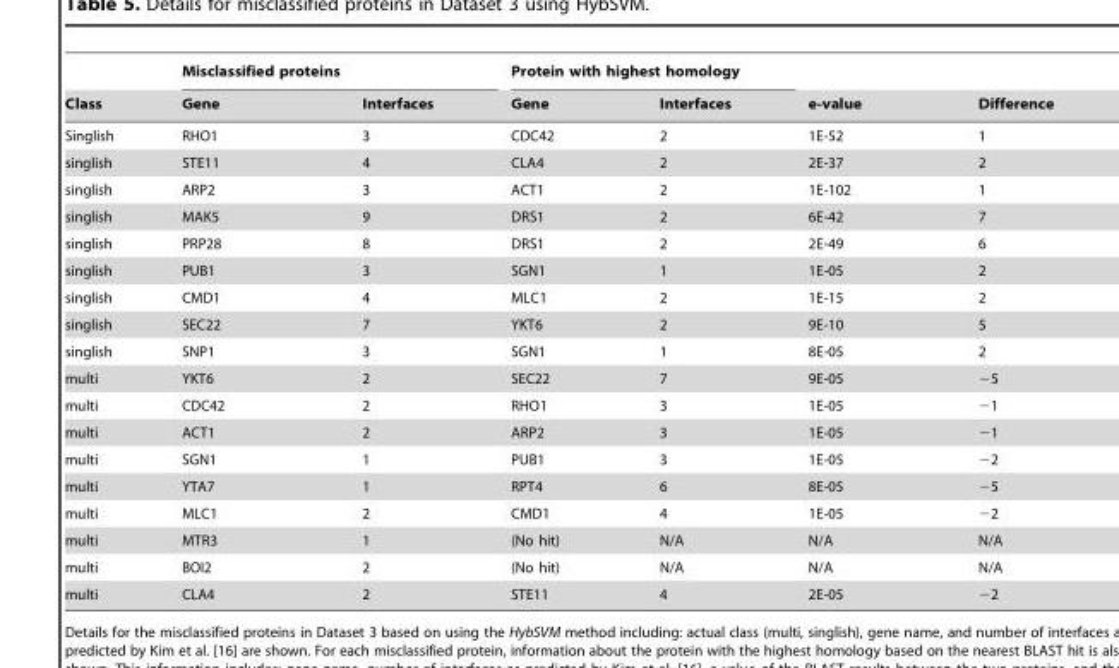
<table><thead><tr><td rowspan="2">Class</td><td colspan="2">Misclassified proteins</td><td colspan="2">Protein with highest homology</td><td rowspan="2">e-value</td><td rowspan="2">Difference</td></tr><tr><td>Gene</td><td>Interfaces</td><td>Gene</td><td>Interfaces</td></tr></thead><tbody><tr><td>Singlish</td><td>RHO1</td><td>3</td><td>CDC42</td><td>2</td><td>1E-52</td><td>1</td></tr><tr><td>singlish</td><td>STE11</td><td>4</td><td>CLA4</td><td>2</td><td>2E-37</td><td>2</td></tr><tr><td>singlish</td><td>ARP2</td><td>3</td><td>ACT1</td><td>2</td><td>1E-102</td><td>1</td></tr><tr><td>singlish</td><td>MAK5</td><td>9</td><td>DRS1</td><td>2</td><td>6E-42</td><td>7</td></tr><tr><td>singlish</td><td>PRP28</td><td>8</td><td>DRS1</td><td>2</td><td>2E-49</td><td>6</td></tr><tr><td>singlish</td><td>PUB1</td><td>3</td><td>SGN1</td><td>1</td><td>1E-05</td><td>2</td></tr><tr><td>singlish</td><td>CMD1</td><td>4</td><td>MLC1</td><td>2</td><td>1E-15</td><td>2</td></tr><tr><td>singlish</td><td>SEC22</td><td>7</td><td>YKT6</td><td>2</td><td>9E-10</td><td>5</td></tr><tr><td>singlish</td><td>SNP1</td><td>3</td><td>SGN1</td><td>1</td><td>8E-05</td><td>2</td></tr><tr><td>multi</td><td>YKT6</td><td>2</td><td>SEC22</td><td>7</td><td>9E-05</td><td>−5</td></tr><tr><td>multi</td><td>CDC42</td><td>2</td><td>RHO1</td><td>3</td><td>1E-05</td><td>−1</td></tr><tr><td>multi</td><td>ACT1</td><td>2</td><td>ARP2</td><td>3</td><td>1E-05</td><td>−1</td></tr><tr><td>multi</td><td>SGN1</td><td>1</td><td>PUB1</td><td>3</td><td>1E-05</td><td>−2</td></tr><tr><td>multi</td><td>YTA7</td><td>1</td><td>RPT4</td><td>6</td><td>8E-05</td><td>−5</td></tr><tr><td>multi</td><td>MLC1</td><td>2</td><td>CMD1</td><td>4</td><td>1E-05</td><td>−2</td></tr><tr><td>multi</td><td>MTR3</td><td>1</td><td>(No hit)</td><td>N/A</td><td>N/A</td><td>N/A</td></tr><tr><td>multi</td><td>BOI2</td><td>2</td><td>(No hit)</td><td>N/A</td><td>N/A</td><td>N/A</td></tr><tr><td>multi</td><td>CLA4</td><td>2</td><td>STE11</td><td>4</td><td>2E-05</td><td>−2</td></tr></tbody></table>